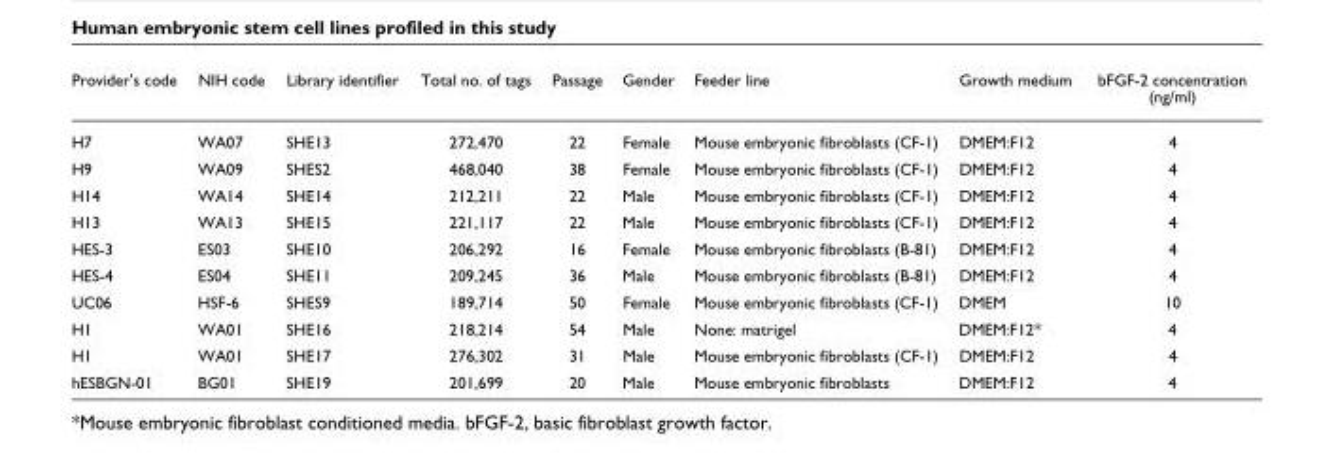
<table><thead><tr><td>Provider&#x27;s code</td><td>NIH code</td><td>Library identifier</td><td>Total no. of tags</td><td>Passage</td><td>Gender</td><td>Feeder line</td><td>Growth medium</td><td>bFGF-2 concentration (ng/ml)</td></tr></thead><tbody><tr><td>H7</td><td>WA07</td><td>SHE13</td><td>272,470</td><td>22</td><td>Female</td><td>Mouse embryonic fibroblasts (CF-1)</td><td>DMEM:F12</td><td>4</td></tr><tr><td>H9</td><td>WA09</td><td>SHES2</td><td>468,040</td><td>38</td><td>Female</td><td>Mouse embryonic fibroblasts (CF-1)</td><td>DMEM:F12</td><td>4</td></tr><tr><td>H14</td><td>WA14</td><td>SHE14</td><td>212,211</td><td>22</td><td>Male</td><td>Mouse embryonic fibroblasts (CF-1)</td><td>DMEM:F12</td><td>4</td></tr><tr><td>H13</td><td>WA13</td><td>SHE15</td><td>221,117</td><td>22</td><td>Male</td><td>Mouse embryonic fibroblasts (CF-1)</td><td>DMEM:F12</td><td>4</td></tr><tr><td>HES-3</td><td>ES03</td><td>SHE10</td><td>206,292</td><td>16</td><td>Female</td><td>Mouse embryonic fibroblasts (B-81)</td><td>DMEM:F12</td><td>4</td></tr><tr><td>HES-4</td><td>ES04</td><td>SHE11</td><td>209,245</td><td>36</td><td>Male</td><td>Mouse embryonic fibroblasts (B-81)</td><td>DMEM:F12</td><td>4</td></tr><tr><td>UC06</td><td>HSF-6</td><td>SHES9</td><td>189,714</td><td>50</td><td>Female</td><td>Mouse embryonic fibroblasts (CF-1)</td><td>DMEM</td><td>10</td></tr><tr><td>H1</td><td>WA01</td><td>SHE16</td><td>218,214</td><td>54</td><td>Male</td><td>None: matrigel</td><td>DMEM:F12*</td><td>4</td></tr><tr><td>H1</td><td>WA01</td><td>SHE17</td><td>276,302</td><td>31</td><td>Male</td><td>Mouse embryonic fibroblasts (CF-1)</td><td>DMEM:F12</td><td>4</td></tr><tr><td>hESBGN-01</td><td>BG01</td><td>SHE19</td><td>201,699</td><td>20</td><td>Male</td><td>Mouse embryonic fibroblasts</td><td>DMEM:F12</td><td>4</td></tr></tbody></table>